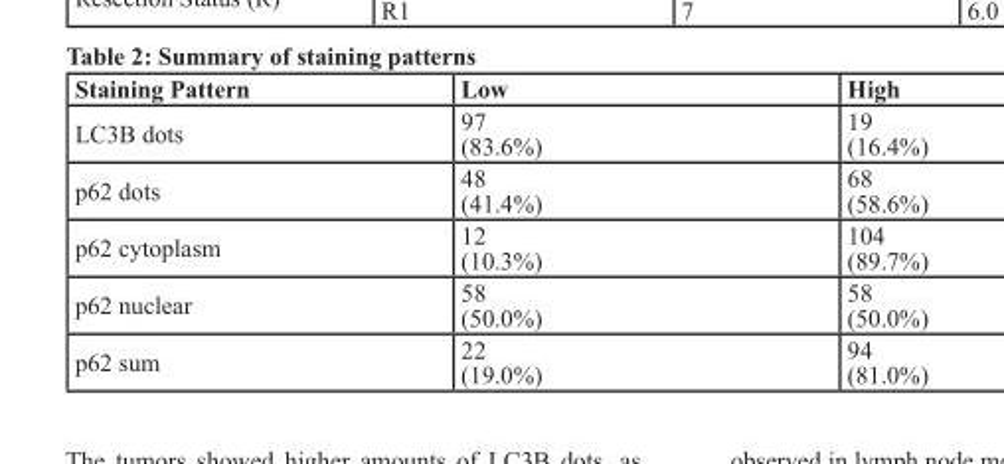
<table><thead><tr><td>staining Pattern</td><td>low</td><td>High</td></tr></thead><tbody><tr><td>LC3B dots</td><td>97 (83.6%)</td><td>19 (16.4%)</td></tr><tr><td>p62 dots</td><td>48 (41.4%)</td><td>68 (58.6%)</td></tr><tr><td>p62 cytoplasm</td><td>12 (10.3%)</td><td>104 (89.7%)</td></tr><tr><td>p62 nuclear</td><td>58 (50.0%)</td><td>58 (50.0%)</td></tr><tr><td>p62 sum</td><td>22 (19.0%)</td><td>94 (81.0%)</td></tr></tbody></table>